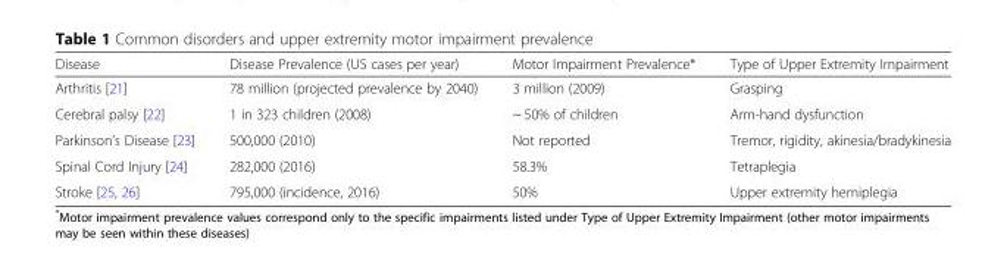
<table><thead><tr><td>Disease</td><td>Disease Prevalence (US cases per year)</td><td>Motor Impairment Prevalence*</td><td>Type of Upper Extremity Impairment</td></tr></thead><tbody><tr><td>Arthritis [21]</td><td>78 million (projected prevalence by 2040)</td><td>3 million (2009)</td><td>Grasping</td></tr><tr><td>Cerebral palsy [22]</td><td>1 in 323 children (2008)</td><td>~ 50% of children</td><td>Arm-hand dysfunction</td></tr><tr><td>Parkinson’s Disease [23]</td><td>500,000 (2010)</td><td>Not reported</td><td>Tremor, rigidity, akinesia/bradykinesia</td></tr><tr><td>Spinal Cord Injury [24]</td><td>282,000 (2016)</td><td>58.3%</td><td>Tetraplegia</td></tr><tr><td>Stroke [25, 26]</td><td>795,000 (incidence, 2016)</td><td>50%</td><td>Upper extremity hemiplegia</td></tr></tbody></table>